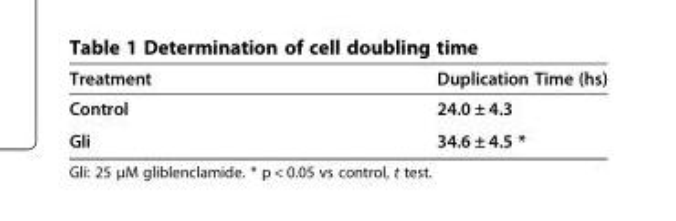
<table><thead><tr><td>Treatment</td><td>Duplication Time (hs)</td></tr></thead><tbody><tr><td>Control</td><td>24.0 ± 4.3</td></tr><tr><td>Gli</td><td>34.6 ± 4.5 *</td></tr></tbody></table>